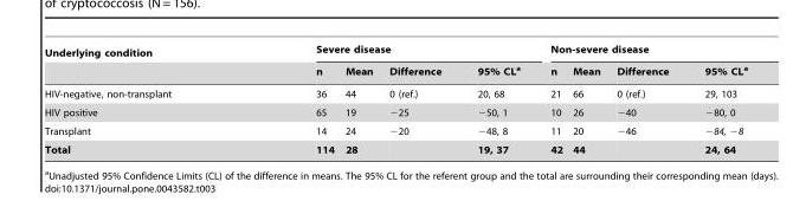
<table><thead><tr><td rowspan="2">Underlying condition</td><td colspan="4">Severe disease</td><td colspan="4">Non-severe disease</td></tr><tr><td>n</td><td>Mean</td><td>Difference</td><td>95% CL<sup>a</sup></td><td>n</td><td>Mean</td><td>Difference</td><td>95% CL<sup>a</sup></td></tr></thead><tbody><tr><td>HIV-negative, non-transplant</td><td>36</td><td>44</td><td>0 (ref.)</td><td>20, 68</td><td>21</td><td>66</td><td>0 (ref.)</td><td>29, 103</td></tr><tr><td>HIV positive</td><td>65</td><td>19</td><td>−25</td><td>−50, 1</td><td>10</td><td>26</td><td>−40</td><td>−80, 0</td></tr><tr><td>Transplant</td><td>14</td><td>24</td><td>−20</td><td>−48, 8</td><td>11</td><td>20</td><td>−46</td><td>−84, −8</td></tr><tr><td>Total</td><td>114</td><td>28</td><td></td><td>19, 37</td><td>42</td><td>44</td><td></td><td>24, 64</td></tr></tbody></table>